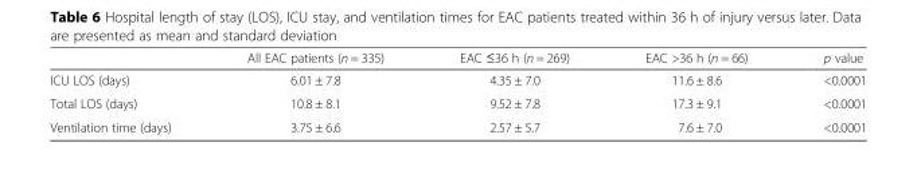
<table><thead><tr><td></td><td>All EAC patients (n = 335)</td><td>EAC ≤36 h (n = 269)</td><td>EAC &gt;36 h (n = 66)</td><td>p value</td></tr></thead><tbody><tr><td>ICU LOS (days)</td><td>6.01 ± 7.8</td><td>4.35 ± 7.0</td><td>11.6 ± 8.6</td><td>&lt;0.0001</td></tr><tr><td>Total LOS (days)</td><td>10.8 ± 8.1</td><td>9.52 ± 7.8</td><td>17.3 ± 9.1</td><td>&lt;0.0001</td></tr><tr><td>Ventilation time (days)</td><td>3.75 ± 6.6</td><td>2.57 ± 5.7</td><td>7.6 ± 7.0</td><td>&lt;0.0001</td></tr></tbody></table>